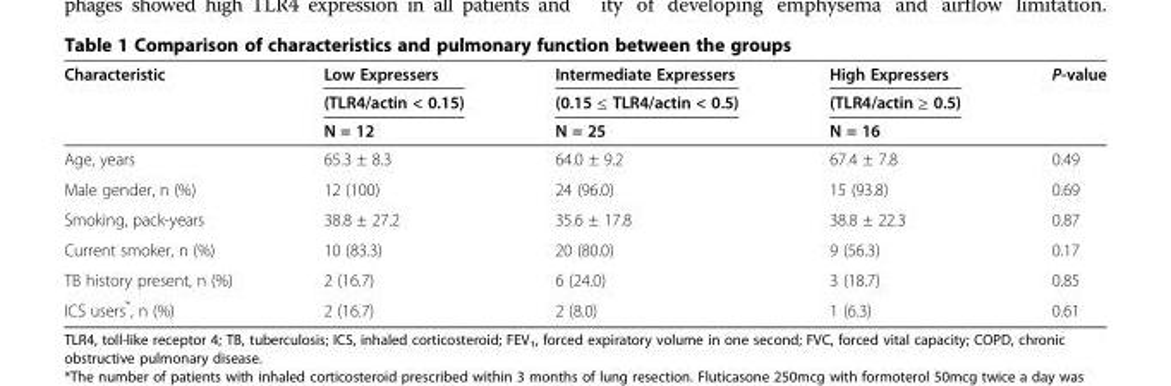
<table><thead><tr><td rowspan="3">Characteristic</td><td rowspan="3">Low Expressers (TLR4/actin &lt; 0.15) N = 12</td><td rowspan="3">Intermediate Expressers (0.15 ≤ TLR4/actin &lt; 0.5) N = 25</td><td rowspan="3">High Expressers (TLR4/actin ≥ 0.5) N = 16</td><td rowspan="3">P-value</td></tr><tr></tr><tr></tr></thead><tbody><tr><td>Age, years</td><td>65.3 ± 8.3</td><td>64.0 ± 9.2</td><td>67.4 ± 7.8</td><td>0.49</td></tr><tr><td>Male gender, n (%)</td><td>12 (100)</td><td>24 (96.0)</td><td>15 (93.8)</td><td>0.69</td></tr><tr><td>Smoking, pack-years</td><td>38.8 ± 27.2</td><td>35.6 ± 17.8</td><td>38.8 ± 22.3</td><td>0.87</td></tr><tr><td>Current smoker, n (%)</td><td>10 (83.3)</td><td>20 (80.0)</td><td>9 (56.3)</td><td>0.17</td></tr><tr><td>TB history present, n (%)</td><td>2 (16.7)</td><td>6 (24.0)</td><td>3 (18.7)</td><td>0.85</td></tr><tr><td>ICS users*, n (%)</td><td>2 (16.7)</td><td>2 (8.0)</td><td>1 (6.3)</td><td>0.61</td></tr></tbody></table>